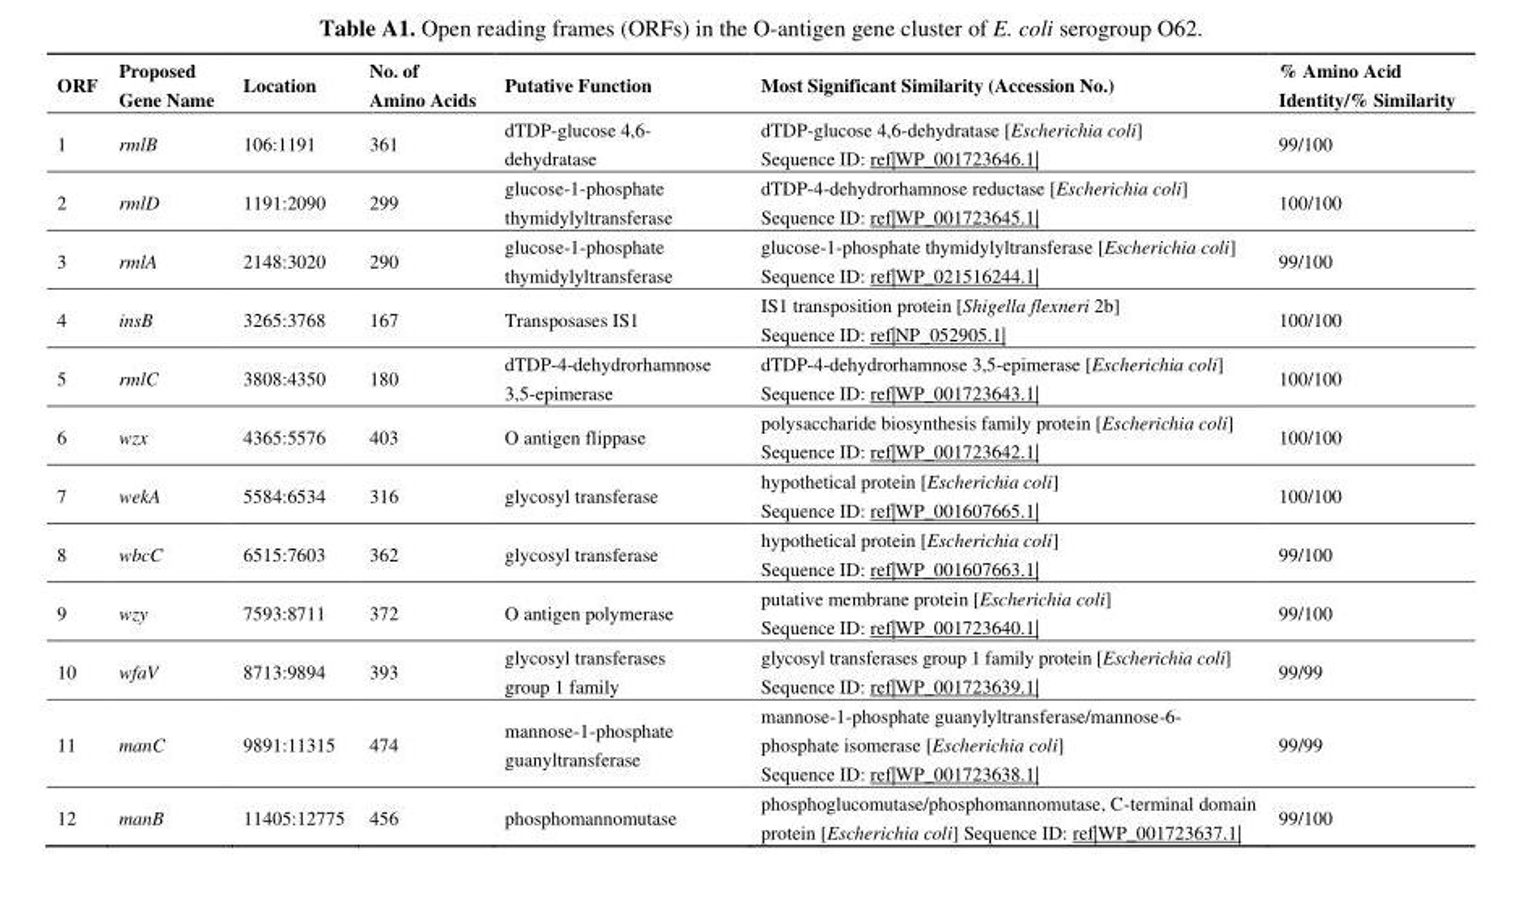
<table><thead><tr><td>ORF</td><td>Proposed Gene Name</td><td>Location</td><td>No. of Amino Acids</td><td>Putative Function</td><td>Most Significant Similarity (Accession No.)</td><td>% Amino Acid Identity/% Similarity</td></tr></thead><tbody><tr><td>1</td><td>rmlB</td><td>106:1191</td><td>361</td><td>dTDP-glucose 4,6- dehydratase</td><td>dTDP-glucose 4,6-dehydratase [Escherichia coli] Sequence ID: ref|WP_001723646.1|</td><td>99/100</td></tr><tr><td>2</td><td>rmlD</td><td>1191:2090</td><td>299</td><td>glucose-1-phosphate thymidylyltransferase</td><td>dTDP-4-dehydrorhamnose reductase [Escherichia coli] Sequence ID: ref|WP_001723645.1|</td><td>100/100</td></tr><tr><td>3</td><td>rmlA</td><td>2148:3020</td><td>290</td><td>glucose-1-phosphate thymidylyltransferase</td><td>glucose-1-phosphate thymidylyltransferase [Escherichia coli] Sequence ID: ref|WP_021516244.1|</td><td>99/100</td></tr><tr><td>4</td><td>insB</td><td>3265:3768</td><td>167</td><td>Transposases IS1</td><td>IS1 transposition protein [Shigella flexneri 2b] Sequence ID: ref|NP_052905.1|</td><td>100/100</td></tr><tr><td>5</td><td>rmlC</td><td>3808:4350</td><td>180</td><td>dTDP-4-dehydrorhamnose 3,5-epimerase</td><td>dTDP-4-dehydrorhamnose 3,5-epimerase [Escherichia coli] Sequence ID: ref|WP_001723643.1|</td><td>100/100</td></tr><tr><td>6</td><td>wzx</td><td>4365:5576</td><td>403</td><td>O antigen flippase</td><td>polysaccharide biosynthesis family protein [Escherichia coli] Sequence ID: ref|WP_001723642.1|</td><td>100/100</td></tr><tr><td>7</td><td>wekA</td><td>5584:6534</td><td>316</td><td>glycosyl transferase</td><td>hypothetical protein [Escherichia coli] Sequence ID: ref|WP_001607665.1|</td><td>100/100</td></tr><tr><td>8</td><td>wbcC</td><td>6515:7603</td><td>362</td><td>glycosyl transferase</td><td>hypothetical protein [Escherichia coli] Sequence ID: ref|WP_001607663.1|</td><td>99/100</td></tr><tr><td>9</td><td>wzy</td><td>7593:8711</td><td>372</td><td>O antigen polymerase</td><td>putative membrane protein [Escherichia coli] Sequence ID: ref|WP_001723640.1|</td><td>99/100</td></tr><tr><td>10</td><td>wfaV</td><td>8713:9894</td><td>393</td><td>glycosyl transferases group 1 family</td><td>glycosyl transferases group 1 family protein [Escherichia coli] Sequence ID: ref|WP_001723639.1|</td><td>99/99</td></tr><tr><td>11</td><td>manC</td><td>9891:11315</td><td>474</td><td>mannose-1-phosphate guanyltransferase</td><td>mannose-1-phosphate guanylyltransferase/mannose-6- phosphate isomerase [Escherichia coli] Sequence ID: ref|WP_001723638.1|</td><td>99/99</td></tr><tr><td>12</td><td>manB</td><td>11405:12775</td><td>456</td><td>phosphomannomutase</td><td>phosphoglucomutase/phosphomannomutase, C-terminal domain protein [Escherichia coli] Sequence ID: ref|WP_001723637.1|</td><td>99/100</td></tr></tbody></table>